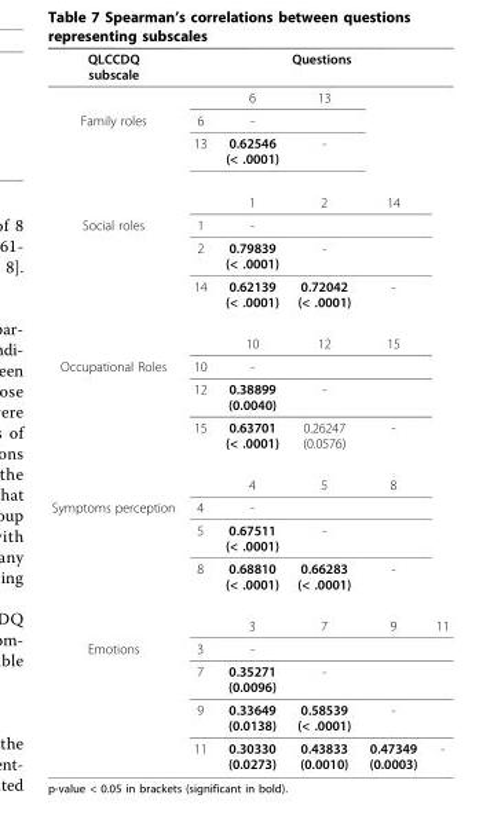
<table><thead><tr><td rowspan="2">QLCCDQ subscale</td><td colspan="5">Questions</td></tr><tr><td></td><td>6</td><td>13</td><td></td><td></td></tr></thead><tbody><tr><td rowspan="3">Family roles</td><td>6</td><td>-</td><td></td><td></td><td></td></tr><tr><td>13</td><td>0.62546 (&lt; .0001)</td><td>-</td><td></td><td></td></tr><tr><td></td><td>1</td><td>2</td><td>14</td><td></td></tr><tr><td rowspan="4">Social roles</td><td>1</td><td>-</td><td></td><td></td><td></td></tr><tr><td>2</td><td>0.79839 (&lt; .0001)</td><td>-</td><td></td><td></td></tr><tr><td>14</td><td>0.62139 (&lt; .0001)</td><td>0.72042 (&lt; .0001)</td><td>-</td><td></td></tr><tr><td></td><td>10</td><td>12</td><td>15</td><td></td></tr><tr><td rowspan="4">Occupational Roles</td><td>10</td><td>-</td><td></td><td></td><td></td></tr><tr><td>12</td><td>0.38899 (0.0040)</td><td>-</td><td></td><td></td></tr><tr><td>15</td><td>0.63701 (&lt; .0001)</td><td>0.26247 (0.0576)</td><td>-</td><td></td></tr><tr><td></td><td>4</td><td>5</td><td>8</td><td></td></tr><tr><td rowspan="4">Symptoms perception</td><td>4</td><td>-</td><td></td><td></td><td></td></tr><tr><td>5</td><td>0.67511 (&lt; .0001)</td><td>-</td><td></td><td></td></tr><tr><td>8</td><td>0.68810 (&lt; .0001)</td><td>0.66283 (&lt; .0001)</td><td>-</td><td></td></tr><tr><td></td><td>3</td><td>7</td><td>9</td><td>11</td></tr><tr><td rowspan="4">Emotions</td><td>3</td><td>-</td><td></td><td></td><td></td></tr><tr><td>7</td><td>0.35271 (0.0096)</td><td>-</td><td></td><td></td></tr><tr><td>9</td><td>0.33649 (0.0138)</td><td>0.58539 (&lt; .0001)</td><td>-</td><td></td></tr><tr><td>11</td><td>0.30330 (0.0273)</td><td>0.43833 (0.0010)</td><td>0.47349 (0.0003)</td><td>-</td></tr></tbody></table>